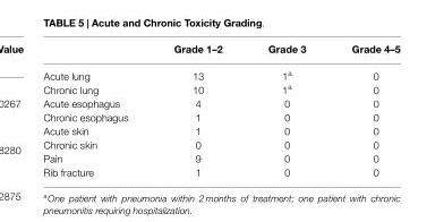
<table><thead><tr><td></td><td>Grade 1–2</td><td>Grade 3</td><td>Grade 4–5</td></tr></thead><tbody><tr><td>Acute lung</td><td>13</td><td>1<sup>a</sup></td><td>0</td></tr><tr><td>Chronic lung</td><td>10</td><td>1<sup>a</sup></td><td>0</td></tr><tr><td>Acute esophagus</td><td>4</td><td>0</td><td>0</td></tr><tr><td>Chronic esophagus</td><td>1</td><td>0</td><td>0</td></tr><tr><td>Acute skin</td><td>1</td><td>0</td><td>0</td></tr><tr><td>Chronic skin</td><td>0</td><td>0</td><td>0</td></tr><tr><td>Pain</td><td>9</td><td>0</td><td>0</td></tr><tr><td>Rib fracture</td><td>1</td><td>0</td><td>0</td></tr></tbody></table>